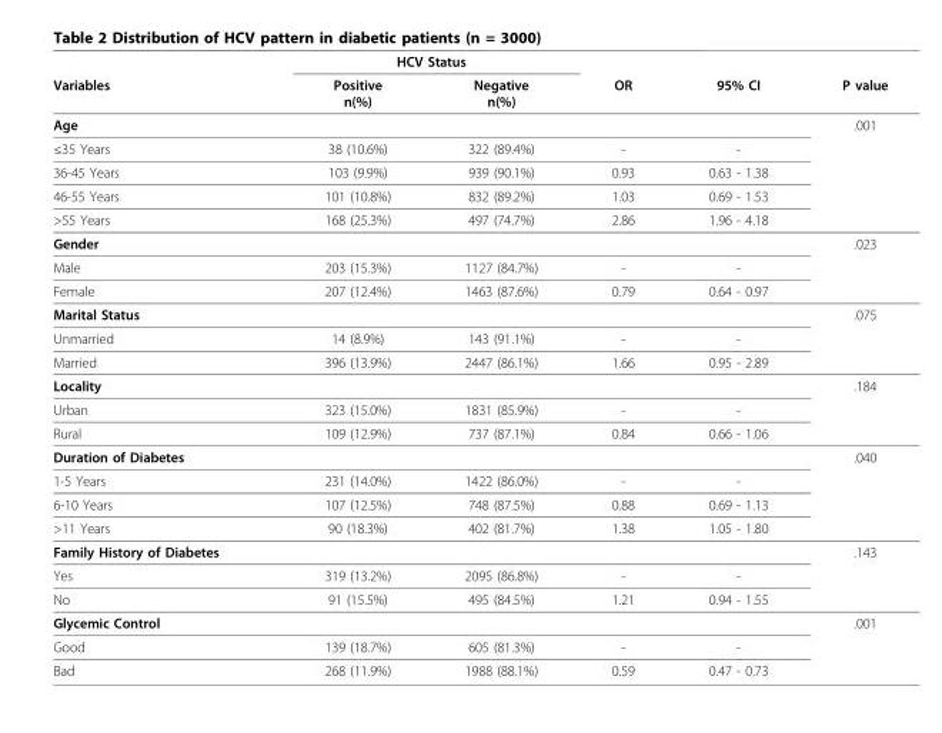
<table><thead><tr><td rowspan="2">Variables</td><td colspan="2">HCV Status</td><td rowspan="2">OR</td><td rowspan="2">95% CI</td><td rowspan="2">P value</td></tr><tr><td>Positive n(%)</td><td>Negative n(%)</td></tr></thead><tbody><tr><td>Age</td><td></td><td></td><td></td><td></td><td>.001</td></tr><tr><td>≤35 Years</td><td>38 (10.6%)</td><td>322 (89.4%)</td><td>-</td><td>-</td><td></td></tr><tr><td>36-45 Years</td><td>103 (9.9%)</td><td>939 (90.1%)</td><td>0.93</td><td>0.63 - 1.38</td><td></td></tr><tr><td>46-55 Years</td><td>101 (10.8%)</td><td>832 (89.2%)</td><td>1.03</td><td>0.69 - 1.53</td><td></td></tr><tr><td>&gt;55 Years</td><td>168 (25.3%)</td><td>497 (74.7%)</td><td>2.86</td><td>1.96 - 4.18</td><td></td></tr><tr><td>Gender</td><td></td><td></td><td></td><td></td><td>.023</td></tr><tr><td>Male</td><td>203 (15.3%)</td><td>1127 (84.7%)</td><td>-</td><td>-</td><td></td></tr><tr><td>Female</td><td>207 (12.4%)</td><td>1463 (87.6%)</td><td>0.79</td><td>0.64 - 0.97</td><td></td></tr><tr><td>Marital Status</td><td></td><td></td><td></td><td></td><td>.075</td></tr><tr><td>Unmarried</td><td>14 (8.9%)</td><td>143 (91.1%)</td><td>-</td><td>-</td><td></td></tr><tr><td>Married</td><td>396 (13.9%)</td><td>2447 (86.1%)</td><td>1.66</td><td>0.95 - 2.89</td><td></td></tr><tr><td>Locality</td><td></td><td></td><td></td><td></td><td>.184</td></tr><tr><td>Urban</td><td>323 (15.0%)</td><td>1831 (85.9%)</td><td>-</td><td>-</td><td></td></tr><tr><td>Rural</td><td>109 (12.9%)</td><td>737 (87.1%)</td><td>0.84</td><td>0.66 - 1.06</td><td></td></tr><tr><td>Duration of Diabetes</td><td></td><td></td><td></td><td></td><td>.040</td></tr><tr><td>1-5 Years</td><td>231 (14.0%)</td><td>1422 (86.0%)</td><td>-</td><td>-</td><td></td></tr><tr><td>6-10 Years</td><td>107 (12.5%)</td><td>748 (87.5%)</td><td>0.88</td><td>0.69 - 1.13</td><td></td></tr><tr><td>&gt;11 Years</td><td>90 (18.3%)</td><td>402 (81.7%)</td><td>1.38</td><td>1.05 - 1.80</td><td></td></tr><tr><td>Family History of Diabetes</td><td></td><td></td><td></td><td></td><td>.143</td></tr><tr><td>Yes</td><td>319 (13.2%)</td><td>2095 (86.8%)</td><td>-</td><td>-</td><td></td></tr><tr><td>No</td><td>91 (15.5%)</td><td>495 (84.5%)</td><td>1.21</td><td>0.94 - 1.55</td><td></td></tr><tr><td>Glycemic Control</td><td></td><td></td><td></td><td></td><td>.001</td></tr><tr><td>Good</td><td>139 (18.7%)</td><td>605 (81.3%)</td><td>-</td><td>-</td><td></td></tr><tr><td>Bad</td><td>268 (11.9%)</td><td>1988 (88.1%)</td><td>0.59</td><td>0.47 - 0.73</td><td></td></tr></tbody></table>